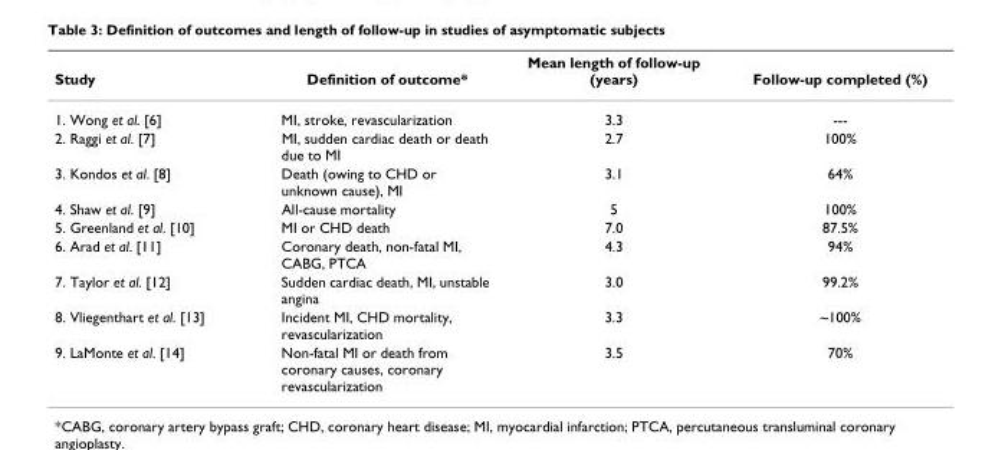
<table><thead><tr><td>Study</td><td>Definition of outcome*</td><td>Mean length of follow-up (years)</td><td>Follow-up completed (%)</td></tr></thead><tbody><tr><td>1. Wong et al. [6]</td><td>MI, stroke, revascularization</td><td>3.3</td><td>---</td></tr><tr><td>2. Raggi et al. [7]</td><td>MI, sudden cardiac death or death due to MI</td><td>2.7</td><td>100%</td></tr><tr><td>3. Kondos et al. [8]</td><td>Death (owing to CHD or unknown cause), MI</td><td>3.1</td><td>64%</td></tr><tr><td>4. Shaw et al. [9]</td><td>All-cause mortality</td><td>5</td><td>100%</td></tr><tr><td>5. Greenland et al. [10]</td><td>MI or CHD death</td><td>7.0</td><td>87.5%</td></tr><tr><td>6. Arad et al. [11]</td><td>Coronary death, non-fatal MI, CABG, PTCA</td><td>4.3</td><td>94%</td></tr><tr><td>7. Taylor et al. [12]</td><td>Sudden cardiac death, MI, unstable angina</td><td>3.0</td><td>99.2%</td></tr><tr><td>8. Vliegenthart et al. [13]</td><td>Incident MI, CHD mortality, revascularization</td><td>3.3</td><td>~100%</td></tr><tr><td>9. LaMonte et al. [14]</td><td>Non-fatal MI or death from coronary causes, coronary revascularization</td><td>3.5</td><td>70%</td></tr></tbody></table>